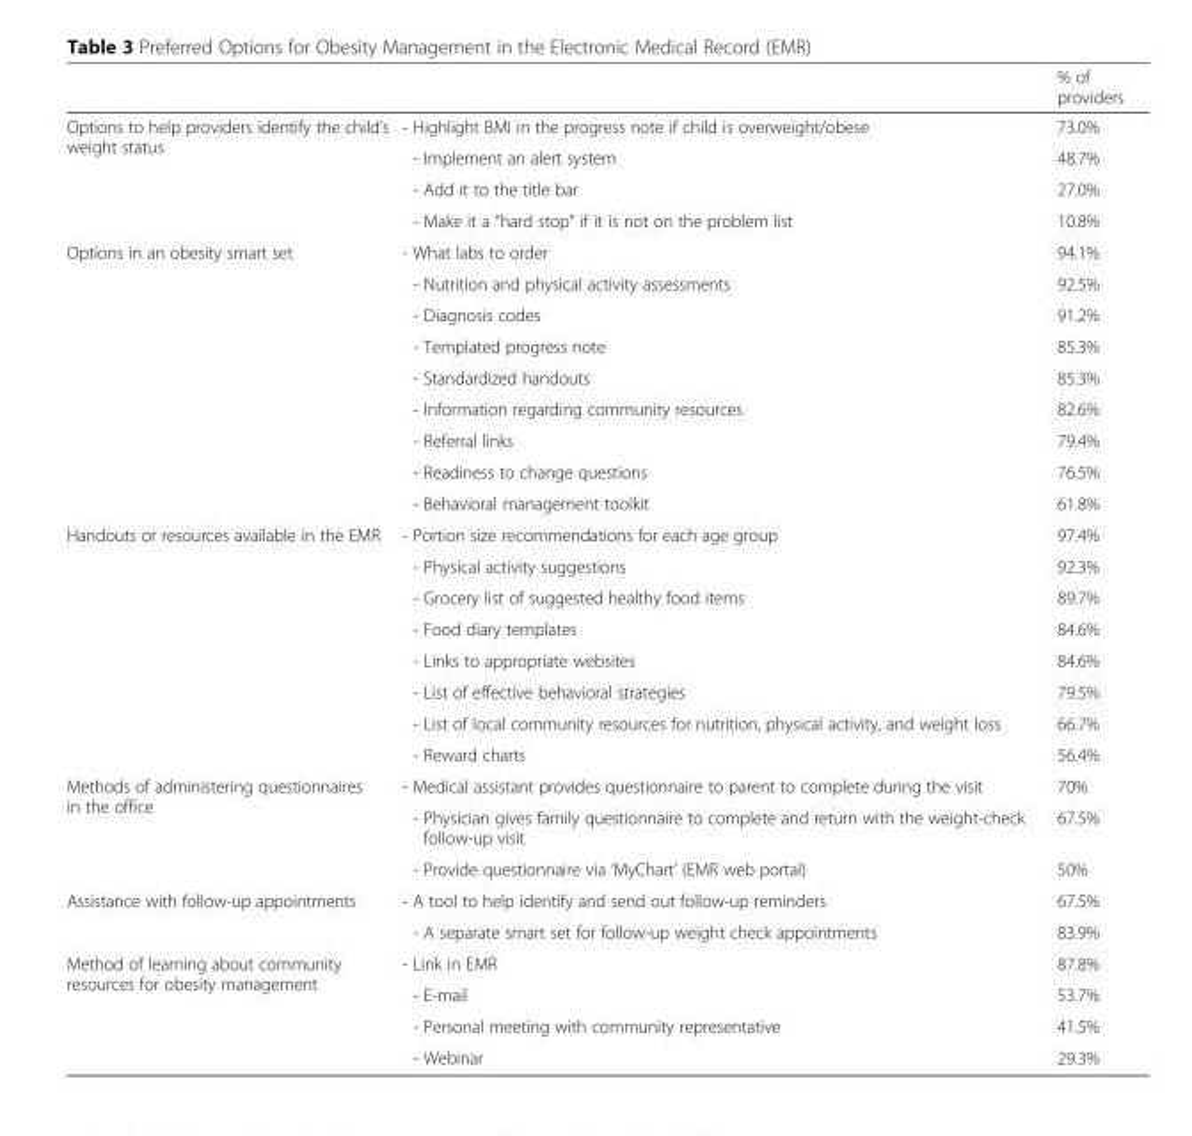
<table><thead><tr><td></td><td></td><td>% of providers</td></tr></thead><tbody><tr><td rowspan="4">Options to help providers identify the child’s weight status</td><td>- Highlight BMI in the progress note if child is overweight/obese</td><td>73.0%</td></tr><tr><td>- Implement an alert system</td><td>48.7%</td></tr><tr><td>- Add it to the title bar</td><td>27.0%</td></tr><tr><td>- Make it a “hard stop” if it is not on the problem list</td><td>10.8%</td></tr><tr><td rowspan="9">Options in an obesity smart set</td><td>- What labs to order</td><td>94.1%</td></tr><tr><td>- Nutrition and physical activity assessments</td><td>92.5%</td></tr><tr><td>- Diagnosis codes</td><td>91.2%</td></tr><tr><td>- Templated progress note</td><td>85.3%</td></tr><tr><td>- Standardized handouts</td><td>85.3%</td></tr><tr><td>- Information regarding community resources</td><td>82.6%</td></tr><tr><td>- Referral links</td><td>79.4%</td></tr><tr><td>- Readiness to change questions</td><td>76.5%</td></tr><tr><td>- Behavioral management toolkit</td><td>61.8%</td></tr><tr><td rowspan="8">Handouts or resources available in the EMR</td><td>- Portion size recommendations for each age group</td><td>97.4%</td></tr><tr><td>- Physical activity suggestions</td><td>92.3%</td></tr><tr><td>- Grocery list of suggested healthy food items</td><td>89.7%</td></tr><tr><td>- Food diary templates</td><td>84.6%</td></tr><tr><td>- Links to appropriate websites</td><td>84.6%</td></tr><tr><td>- List of effective behavioral strategies</td><td>79.5%</td></tr><tr><td>- List of local community resources for nutrition, physical activity, and weight loss</td><td>66.7%</td></tr><tr><td>- Reward charts</td><td>56.4%</td></tr><tr><td rowspan="3">Methods of administering questionnaires in the office</td><td>- Medical assistant provides questionnaire to parent to complete during the visit</td><td>70%</td></tr><tr><td>- Physician gives family questionnaire to complete and return with the weight-check follow-up visit</td><td>67.5%</td></tr><tr><td>- Provide questionnaire via ‘MyChart’ (EMR web portal)</td><td>50%</td></tr><tr><td rowspan="2">Assistance with follow-up appointments</td><td>- A tool to help identify and send out follow-up reminders</td><td>67.5%</td></tr><tr><td>- A separate smart set for follow-up weight check appointments</td><td>83.9%</td></tr><tr><td rowspan="4">Method of learning about community resources for obesity management</td><td>- Link in EMR</td><td>87.8%</td></tr><tr><td>- E-mail</td><td>53.7%</td></tr><tr><td>- Personal meeting with community representative</td><td>41.5%</td></tr><tr><td>- Webinar</td><td>29.3%</td></tr></tbody></table>